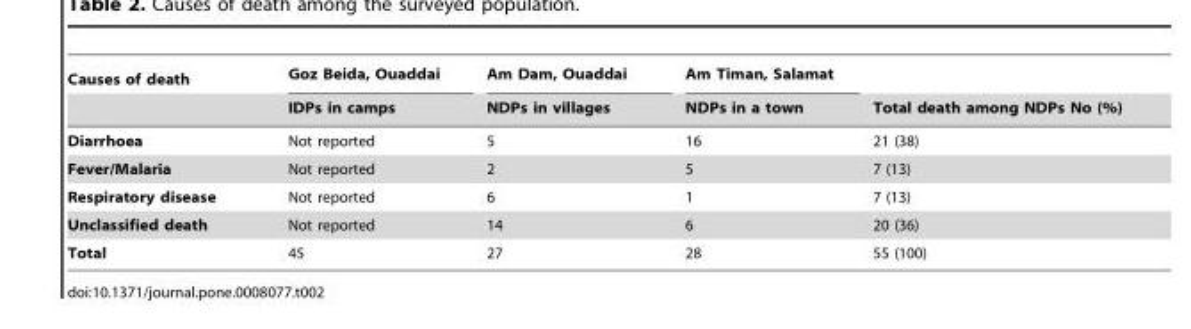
<table><thead><tr><td rowspan="2">Causes of death</td><td rowspan="2">Goz Beida, Ouaddai IDPs in camps</td><td rowspan="2">Am Dam, Ouaddai NDPs in villages</td><td rowspan="2">Am Timan, Salamat NDPs in a town</td><td rowspan="2">Total death among NDPs No (%)</td></tr><tr></tr></thead><tbody><tr><td>Diarrhoea</td><td>Not reported</td><td>5</td><td>16</td><td>21 (38)</td></tr><tr><td>Fever/Malaria</td><td>Not reported</td><td>2</td><td>5</td><td>7 (13)</td></tr><tr><td>Respiratory disease</td><td>Not reported</td><td>6</td><td>1</td><td>7 (13)</td></tr><tr><td>Unclassified death</td><td>Not reported</td><td>14</td><td>6</td><td>20 (36)</td></tr><tr><td>Total</td><td>45</td><td>27</td><td>28</td><td>55 (100)</td></tr></tbody></table>